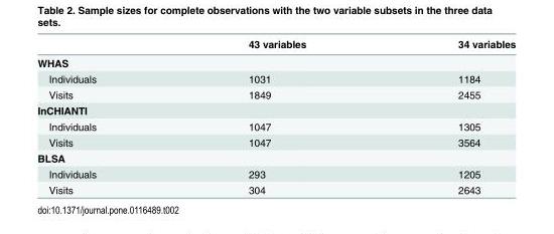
<table><thead><tr><td></td><td>43 variables</td><td>34 variables</td></tr></thead><tbody><tr><td colspan="3">WHAS</td></tr><tr><td>Individuals</td><td>1031</td><td>1184</td></tr><tr><td>Visits</td><td>1849</td><td>2455</td></tr><tr><td colspan="3">InCHIANTI</td></tr><tr><td>Individuals</td><td>1047</td><td>1305</td></tr><tr><td>Visits</td><td>1047</td><td>3564</td></tr><tr><td colspan="3">BLSA</td></tr><tr><td>Individuals</td><td>293</td><td>1205</td></tr><tr><td>Visits</td><td>304</td><td>2643</td></tr></tbody></table>